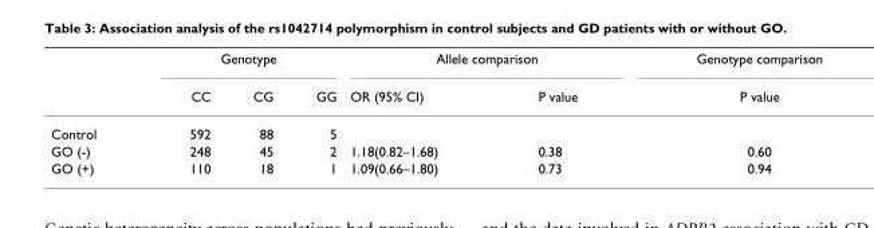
<table><thead><tr><td rowspan="2"></td><td colspan="3">Genotype</td><td colspan="2">Allele comparison</td><td rowspan="2">Genotype comparison P value</td></tr><tr><td>CC</td><td>CG</td><td>GG</td><td>OR (95% CI)</td><td>P value</td></tr></thead><tbody><tr><td>Control</td><td>592</td><td>88</td><td>5</td><td></td><td></td><td></td></tr><tr><td>GO (-)</td><td>248</td><td>45</td><td>2</td><td>1.18(0.82–1.68)</td><td>0.38</td><td>0.60</td></tr><tr><td>GO (+)</td><td>110</td><td>18</td><td>1</td><td>1.09(0.66–1.80)</td><td>0.73</td><td>0.94</td></tr></tbody></table>